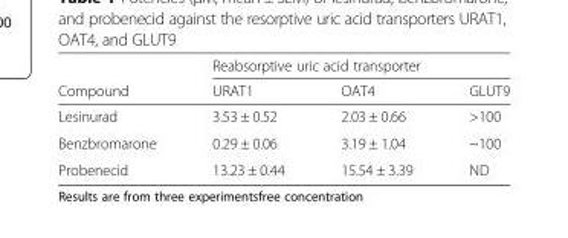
<table><thead><tr><td rowspan="2">Compound</td><td colspan="3">Reabsorptive uric acid transporter</td></tr><tr><td>URAT1</td><td>OAT4</td><td>GLUT9</td></tr></thead><tbody><tr><td>Lesinurad</td><td>3.53 ± 0.52</td><td>2.03 ± 0.66</td><td>&gt;100</td></tr><tr><td>Benzbromarone</td><td>0.29 ± 0.06</td><td>3.19 ± 1.04</td><td>~100</td></tr><tr><td>Probenecid</td><td>13.23 ± 0.44</td><td>15.54 ± 3.39</td><td>ND</td></tr></tbody></table>